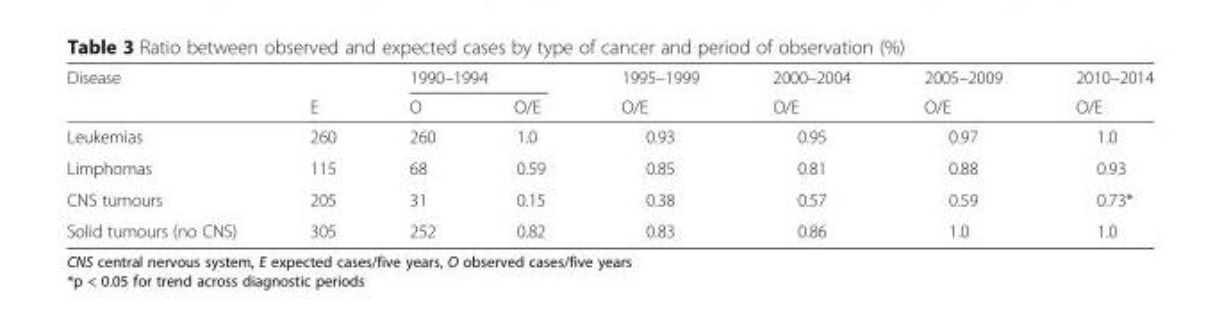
<table><thead><tr><td rowspan="2">Disease</td><td rowspan="2">E</td><td colspan="2">1990–1994</td><td rowspan="2">1995–1999 O/E</td><td rowspan="2">2000–2004 O/E</td><td rowspan="2">2005–2009 O/E</td><td rowspan="2">2010–2014 O/E</td></tr><tr><td>O</td><td>O/E</td></tr></thead><tbody><tr><td>Leukemias</td><td>260</td><td>260</td><td>1.0</td><td>0.93</td><td>0.95</td><td>0.97</td><td>1.0</td></tr><tr><td>Limphomas</td><td>115</td><td>68</td><td>0.59</td><td>0.85</td><td>0.81</td><td>0.88</td><td>0.93</td></tr><tr><td>CNS tumours</td><td>205</td><td>31</td><td>0.15</td><td>0.38</td><td>0.57</td><td>0.59</td><td>0.73*</td></tr><tr><td>Solid tumours (no CNS)</td><td>305</td><td>252</td><td>0.82</td><td>0.83</td><td>0.86</td><td>1.0</td><td>1.0</td></tr></tbody></table>